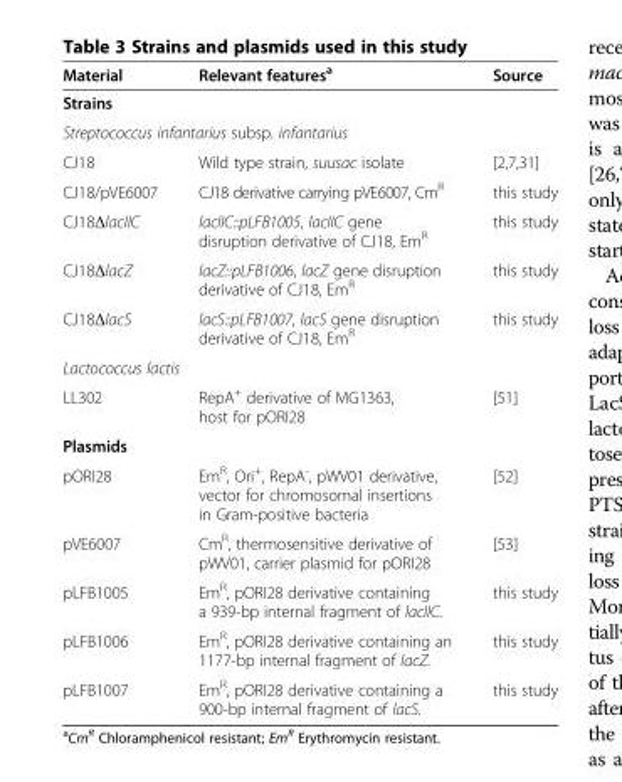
<table><thead><tr><td>Material</td><td>Relevant features<sup>a</sup></td><td>Source</td></tr></thead><tbody><tr><td colspan="2">Strains</td><td rowspan="2"></td></tr><tr><td colspan="2">Streptococcus infantarius subsp. infantarius</td></tr><tr><td>CJ18</td><td>Wild type strain, suusac isolate</td><td>[2,7,31]</td></tr><tr><td>CJ18/pVE6007</td><td>CJ18 derivative carrying pVE6007, Cm<sup>R</sup></td><td>this study</td></tr><tr><td>CJ18ΔlacIIC</td><td>lacIIC::pLFB1005, lacIIC gene disruption derivative of CJ18, Em<sup>R</sup></td><td>this study</td></tr><tr><td>CJ18ΔlacZ</td><td>lacZ::pLFB1006, lacZ gene disruption derivative of CJ18, Em<sup>R</sup></td><td>this study</td></tr><tr><td>CJ18ΔlacS</td><td>lacS::pLFB1007, lacS gene disruption derivative of CJ18, Em<sup>R</sup></td><td>this study</td></tr><tr><td colspan="3">Lactococcus lactis</td></tr><tr><td>LL302</td><td>RepA<sup>+</sup> derivative of MG1363, host for pORI28</td><td>[51]</td></tr><tr><td colspan="3">Plasmids</td></tr><tr><td>pORI28</td><td>Em<sup>R</sup>, Ori<sup>+</sup>, RepA<sup>-</sup>, pWV01 derivative, vector for chromosomal insertions in Gram-positive bacteria</td><td>[52]</td></tr><tr><td>pVE6007</td><td>Cm<sup>R</sup>, thermosensitive derivative of pWV01, carrier plasmid for pORI28</td><td>[53]</td></tr><tr><td>pLFB1005</td><td>Em<sup>R</sup>, pORI28 derivative containing a 939-bp internal fragment of lacIIC.</td><td>this study</td></tr><tr><td>pLFB1006</td><td>Em<sup>R</sup>, pORI28 derivative containing an 1177-bp internal fragment of lacZ.</td><td>this study</td></tr><tr><td>pLFB1007</td><td>Em<sup>R</sup>, pORI28 derivative containing a 900-bp internal fragment of lacS.</td><td>this study</td></tr></tbody></table>